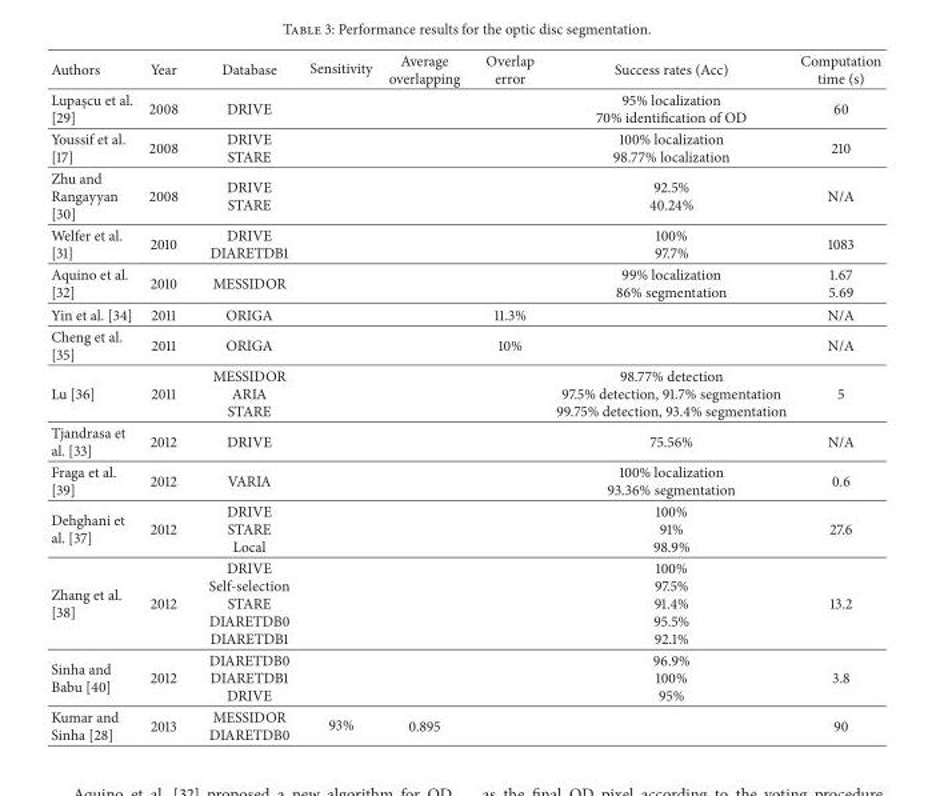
<table><thead><tr><td>Authors</td><td>Year</td><td>Database</td><td>Sensitivity</td><td>Average overlapping</td><td>Overlap error</td><td>Success rates (Acc)</td><td>Computation time (s)</td></tr></thead><tbody><tr><td>Lupas¸cu et al. [29]</td><td>2008</td><td>DRIVE</td><td></td><td></td><td></td><td>95% localization 70% identification of OD</td><td>60</td></tr><tr><td>Youssif et al. [17]</td><td>2008</td><td>DRIVE STARE</td><td></td><td></td><td></td><td>100% localization 98.77% localization</td><td>210</td></tr><tr><td>Zhu and Rangayyan [30]</td><td>2008</td><td>DRIVE STARE</td><td></td><td></td><td></td><td>92.5% 40.24%</td><td>N/A</td></tr><tr><td>Welfer et al. [31]</td><td>2010</td><td>DRIVE DIARETDB1</td><td></td><td></td><td></td><td>100% 97.7%</td><td>1083</td></tr><tr><td>Aquino et al. [32]</td><td>2010</td><td>MESSIDOR</td><td></td><td></td><td></td><td>99% localization 86% segmentation</td><td>1.67 5.69</td></tr><tr><td>Yin et al. [34]</td><td>2011</td><td>ORIGA</td><td></td><td></td><td>11.3%</td><td></td><td>N/A</td></tr><tr><td>Cheng et al. [35]</td><td>2011</td><td>ORIGA</td><td></td><td></td><td>10%</td><td></td><td>N/A</td></tr><tr><td>Lu [36]</td><td>2011</td><td>MESSIDOR ARIA STARE</td><td></td><td></td><td></td><td>98.77% detection 97.5% detection, 91.7% segmentation 99.75% detection, 93.4% segmentation</td><td>5</td></tr><tr><td>Tjandrasa et al. [33]</td><td>2012</td><td>DRIVE</td><td></td><td></td><td></td><td>75.56%</td><td>N/A</td></tr><tr><td>Fraga et al. [39]</td><td>2012</td><td>VARIA</td><td></td><td></td><td></td><td>100% localization 93.36% segmentation</td><td>0.6</td></tr><tr><td>Dehghani et al. [37]</td><td>2012</td><td>DRIVE STARE Local</td><td></td><td></td><td></td><td>100% 91% 98.9%</td><td>27.6</td></tr><tr><td>Zhang et al. [38]</td><td>2012</td><td>DRIVE Self-selection STARE DIARETDB0 DIARETDB1</td><td></td><td></td><td></td><td>100% 97.5% 91.4% 95.5% 92.1%</td><td>13.2</td></tr><tr><td>Sinha and Babu [40]</td><td>2012</td><td>DIARETDB0 DIARETDB1 DRIVE</td><td></td><td></td><td></td><td>96.9% 100% 95%</td><td>3.8</td></tr><tr><td>Kumar and Sinha [28]</td><td>2013</td><td>MESSIDOR DIARETDB0</td><td>93%</td><td>0.895</td><td></td><td></td><td>90</td></tr></tbody></table>